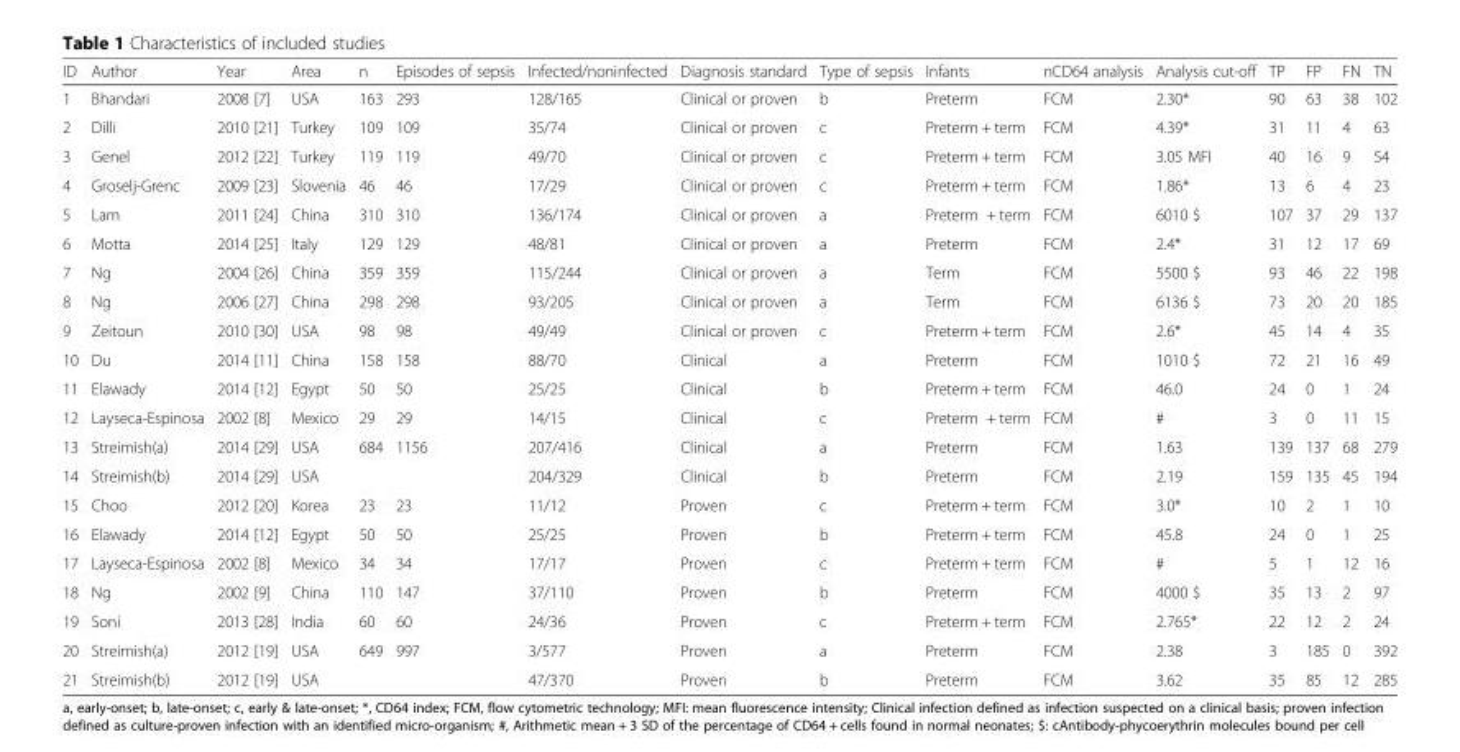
<table><thead><tr><td>ID</td><td>Author</td><td>Year</td><td>Area</td><td>n</td><td>Episodes of sepsis</td><td>Infected/noninfected</td><td>Diagnosis standard</td><td>Type of sepsis</td><td>Infants</td><td>nCD64 analysis</td><td>Analysis cut-off</td><td>TP</td><td>FP</td><td>FN</td><td>TN</td></tr></thead><tbody><tr><td>1</td><td>Bhandari</td><td>2008 [7]</td><td>USA</td><td>163</td><td>293</td><td>128/165</td><td>Clinical or proven</td><td>b</td><td>Preterm</td><td>FCM</td><td>2.30*</td><td>90</td><td>63</td><td>38</td><td>102</td></tr><tr><td>2</td><td>Dilli</td><td>2010 [21]</td><td>Turkey</td><td>109</td><td>109</td><td>35/74</td><td>Clinical or proven</td><td>c</td><td>Preterm + term</td><td>FCM</td><td>4.39*</td><td>31</td><td>11</td><td>4</td><td>63</td></tr><tr><td>3</td><td>Genel</td><td>2012 [22]</td><td>Turkey</td><td>119</td><td>119</td><td>49/70</td><td>Clinical or proven</td><td>c</td><td>Preterm + term</td><td>FCM</td><td>3.05 MFI</td><td>40</td><td>16</td><td>9</td><td>54</td></tr><tr><td>4</td><td>Groselj-Grenc</td><td>2009 [23]</td><td>Slovenia</td><td>46</td><td>46</td><td>17/29</td><td>Clinical or proven</td><td>c</td><td>Preterm + term</td><td>FCM</td><td>1.86*</td><td>13</td><td>6</td><td>4</td><td>23</td></tr><tr><td>5</td><td>Lam</td><td>2011 [24]</td><td>China</td><td>310</td><td>310</td><td>136/174</td><td>Clinical or proven</td><td>a</td><td>Preterm + term</td><td>FCM</td><td>6010 $</td><td>107</td><td>37</td><td>29</td><td>137</td></tr><tr><td>6</td><td>Motta</td><td>2014 [25]</td><td>Italy</td><td>129</td><td>129</td><td>48/81</td><td>Clinical or proven</td><td>a</td><td>Preterm</td><td>FCM</td><td>2.4*</td><td>31</td><td>12</td><td>17</td><td>69</td></tr><tr><td>7</td><td>Ng</td><td>2004 [26]</td><td>China</td><td>359</td><td>359</td><td>115/244</td><td>Clinical or proven</td><td>a</td><td>Term</td><td>FCM</td><td>5500 $</td><td>93</td><td>46</td><td>22</td><td>198</td></tr><tr><td>8</td><td>Ng</td><td>2006 [27]</td><td>China</td><td>298</td><td>298</td><td>93/205</td><td>Clinical or proven</td><td>a</td><td>Term</td><td>FCM</td><td>6136 $</td><td>73</td><td>20</td><td>20</td><td>185</td></tr><tr><td>9</td><td>Zeitoun</td><td>2010 [30]</td><td>USA</td><td>98</td><td>98</td><td>49/49</td><td>Clinical or proven</td><td>c</td><td>Preterm + term</td><td>FCM</td><td>2.6*</td><td>45</td><td>14</td><td>4</td><td>35</td></tr><tr><td>10</td><td>Du</td><td>2014 [11]</td><td>China</td><td>158</td><td>158</td><td>88/70</td><td>Clinical</td><td>a</td><td>Preterm</td><td>FCM</td><td>1010 $</td><td>72</td><td>21</td><td>16</td><td>49</td></tr><tr><td>11</td><td>Elawady</td><td>2014 [12]</td><td>Egypt</td><td>50</td><td>50</td><td>25/25</td><td>Clinical</td><td>b</td><td>Preterm + term</td><td>FCM</td><td>46.0</td><td>24</td><td>0</td><td>1</td><td>24</td></tr><tr><td>12</td><td>Layseca-Espinosa</td><td>2002 [8]</td><td>Mexico</td><td>29</td><td>29</td><td>14/15</td><td>Clinical</td><td>c</td><td>Preterm + term</td><td>FCM</td><td>#</td><td>3</td><td>0</td><td>11</td><td>15</td></tr><tr><td>13</td><td>Streimish(a)</td><td>2014 [29]</td><td>USA</td><td>684</td><td>1156</td><td>207/416</td><td>Clinical</td><td>a</td><td>Preterm</td><td>FCM</td><td>1.63</td><td>139</td><td>137</td><td>68</td><td>279</td></tr><tr><td>14</td><td>Streimish(b)</td><td>2014 [29]</td><td>USA</td><td></td><td></td><td>204/329</td><td>Clinical</td><td>b</td><td>Preterm</td><td>FCM</td><td>2.19</td><td>159</td><td>135</td><td>45</td><td>194</td></tr><tr><td>15</td><td>Choo</td><td>2012 [20]</td><td>Korea</td><td>23</td><td>23</td><td>11/12</td><td>Proven</td><td>c</td><td>Preterm + term</td><td>FCM</td><td>3.0*</td><td>10</td><td>2</td><td>1</td><td>10</td></tr><tr><td>16</td><td>Elawady</td><td>2014 [12]</td><td>Egypt</td><td>50</td><td>50</td><td>25/25</td><td>Proven</td><td>b</td><td>Preterm + term</td><td>FCM</td><td>45.8</td><td>24</td><td>0</td><td>1</td><td>25</td></tr><tr><td>17</td><td>Layseca-Espinosa</td><td>2002 [8]</td><td>Mexico</td><td>34</td><td>34</td><td>17/17</td><td>Proven</td><td>c</td><td>Preterm + term</td><td>FCM</td><td>#</td><td>5</td><td>1</td><td>12</td><td>16</td></tr><tr><td>18</td><td>Ng</td><td>2002 [9]</td><td>China</td><td>110</td><td>147</td><td>37/110</td><td>Proven</td><td>b</td><td>Preterm</td><td>FCM</td><td>4000 $</td><td>35</td><td>13</td><td>2</td><td>97</td></tr><tr><td>19</td><td>Soni</td><td>2013 [28]</td><td>India</td><td>60</td><td>60</td><td>24/36</td><td>Proven</td><td>c</td><td>Preterm + term</td><td>FCM</td><td>2.765*</td><td>22</td><td>12</td><td>2</td><td>24</td></tr><tr><td>20</td><td>Streimish(a)</td><td>2012 [19]</td><td>USA</td><td>649</td><td>997</td><td>3/577</td><td>Proven</td><td>a</td><td>Preterm</td><td>FCM</td><td>2.38</td><td>3</td><td>185</td><td>0</td><td>392</td></tr><tr><td>21</td><td>Streimish(b)</td><td>2012 [19]</td><td>USA</td><td></td><td></td><td>47/370</td><td>Proven</td><td>b</td><td>Preterm</td><td>FCM</td><td>3.62</td><td>35</td><td>85</td><td>12</td><td>285</td></tr></tbody></table>